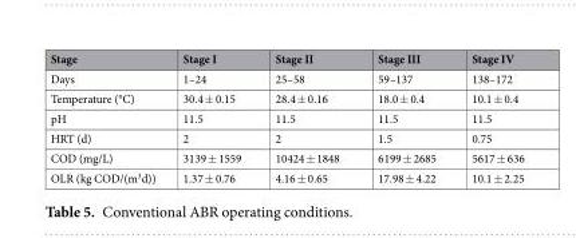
<table><thead><tr><td>Stage</td><td>Stage I</td><td>Stage II</td><td>Stage III</td><td>Stage IV</td></tr></thead><tbody><tr><td>Days</td><td>1–24</td><td>25–58</td><td>59–137</td><td>138–172</td></tr><tr><td>Temperature (°C)</td><td>30.4 ± 0.15</td><td>28.4 ± 0.16</td><td>18.0 ± 0.4</td><td>10.1 ± 0.4</td></tr><tr><td>pH</td><td>11.5</td><td>11.5</td><td>11.5</td><td>11.5</td></tr><tr><td>HRT (d)</td><td>2</td><td>2</td><td>1.5</td><td>0.75</td></tr><tr><td>COD (mg/L)</td><td>3139 ± 1559</td><td>10424 ± 1848</td><td>6199 ± 2685</td><td>5617 ± 636</td></tr><tr><td>OLR (kg COD/(m<sup>3</sup>d))</td><td>1.37 ± 0.76</td><td>4.16 ± 0.65</td><td>17.98 ± 4.22</td><td>10.1 ± 2.25</td></tr></tbody></table>